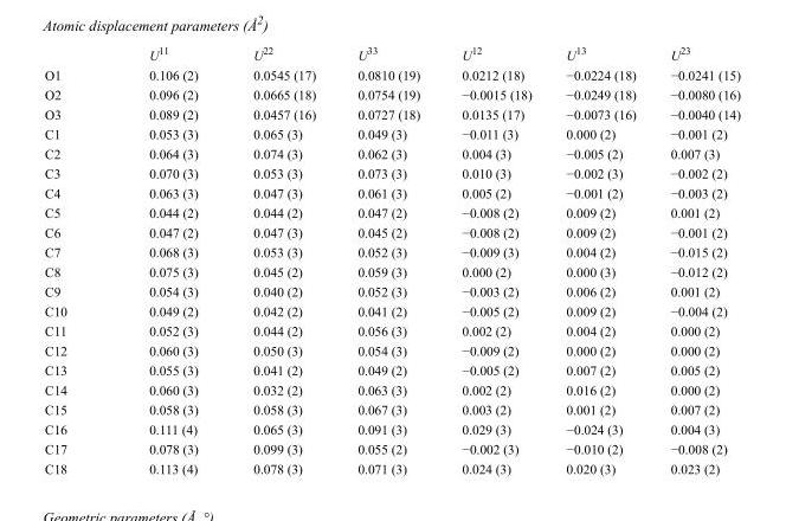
<table><thead><tr><td></td><td>U<sup>11</sup></td><td>U<sup>22</sup></td><td>U<sup>33</sup></td><td>U<sup>12</sup></td><td>U<sup>13</sup></td><td>U<sup>23</sup></td></tr></thead><tbody><tr><td>O1</td><td>0.106 (2)</td><td>0.0545 (17)</td><td>0.0810 (19)</td><td>0.0212 (18)</td><td>−0.0224 (18)</td><td>−0.0241 (15)</td></tr><tr><td>O2</td><td>0.096 (2)</td><td>0.0665 (18)</td><td>0.0754 (19)</td><td>−0.0015 (18)</td><td>−0.0249 (18)</td><td>−0.0080 (16)</td></tr><tr><td>O3</td><td>0.089 (2)</td><td>0.0457 (16)</td><td>0.0727 (18)</td><td>0.0135 (17)</td><td>−0.0073 (16)</td><td>−0.0040 (14)</td></tr><tr><td>C1</td><td>0.053 (3)</td><td>0.065 (3)</td><td>0.049 (3)</td><td>−0.011 (3)</td><td>0.000 (2)</td><td>−0.001 (2)</td></tr><tr><td>C2</td><td>0.064 (3)</td><td>0.074 (3)</td><td>0.062 (3)</td><td>0.004 (3)</td><td>−0.005 (2)</td><td>0.007 (3)</td></tr><tr><td>C3</td><td>0.070 (3)</td><td>0.053 (3)</td><td>0.073 (3)</td><td>0.010 (3)</td><td>−0.002 (3)</td><td>−0.002 (2)</td></tr><tr><td>C4</td><td>0.063 (3)</td><td>0.047 (3)</td><td>0.061 (3)</td><td>0.005 (2)</td><td>−0.001 (2)</td><td>−0.003 (2)</td></tr><tr><td>C5</td><td>0.044 (2)</td><td>0.044 (2)</td><td>0.047 (2)</td><td>−0.008 (2)</td><td>0.009 (2)</td><td>0.001 (2)</td></tr><tr><td>C6</td><td>0.047 (2)</td><td>0.047 (3)</td><td>0.045 (2)</td><td>−0.008 (2)</td><td>0.009 (2)</td><td>−0.001 (2)</td></tr><tr><td>C7</td><td>0.068 (3)</td><td>0.053 (3)</td><td>0.052 (3)</td><td>−0.009 (3)</td><td>0.004 (2)</td><td>−0.015 (2)</td></tr><tr><td>C8</td><td>0.075 (3)</td><td>0.045 (2)</td><td>0.059 (3)</td><td>0.000 (2)</td><td>0.000 (3)</td><td>−0.012 (2)</td></tr><tr><td>C9</td><td>0.054 (3)</td><td>0.040 (2)</td><td>0.052 (3)</td><td>−0.003 (2)</td><td>0.006 (2)</td><td>0.001 (2)</td></tr><tr><td>C10</td><td>0.049 (2)</td><td>0.042 (2)</td><td>0.041 (2)</td><td>−0.005 (2)</td><td>0.009 (2)</td><td>−0.004 (2)</td></tr><tr><td>C11</td><td>0.052 (3)</td><td>0.044 (2)</td><td>0.056 (3)</td><td>0.002 (2)</td><td>0.004 (2)</td><td>0.000 (2)</td></tr><tr><td>C12</td><td>0.060 (3)</td><td>0.050 (3)</td><td>0.054 (3)</td><td>−0.009 (2)</td><td>0.000 (2)</td><td>0.000 (2)</td></tr><tr><td>C13</td><td>0.055 (3)</td><td>0.041 (2)</td><td>0.049 (2)</td><td>−0.005 (2)</td><td>0.007 (2)</td><td>0.005 (2)</td></tr><tr><td>C14</td><td>0.060 (3)</td><td>0.032 (2)</td><td>0.063 (3)</td><td>0.002 (2)</td><td>0.016 (2)</td><td>0.000 (2)</td></tr><tr><td>C15</td><td>0.058 (3)</td><td>0.058 (3)</td><td>0.067 (3)</td><td>0.003 (2)</td><td>0.001 (2)</td><td>0.007 (2)</td></tr><tr><td>C16</td><td>0.111 (4)</td><td>0.065 (3)</td><td>0.091 (3)</td><td>0.029 (3)</td><td>−0.024 (3)</td><td>0.004 (3)</td></tr><tr><td>C17</td><td>0.078 (3)</td><td>0.099 (3)</td><td>0.055 (2)</td><td>−0.002 (3)</td><td>−0.010 (2)</td><td>−0.008 (2)</td></tr><tr><td>C18</td><td>0.113 (4)</td><td>0.078 (3)</td><td>0.071 (3)</td><td>0.024 (3)</td><td>0.020 (3)</td><td>0.023 (2)</td></tr></tbody></table>